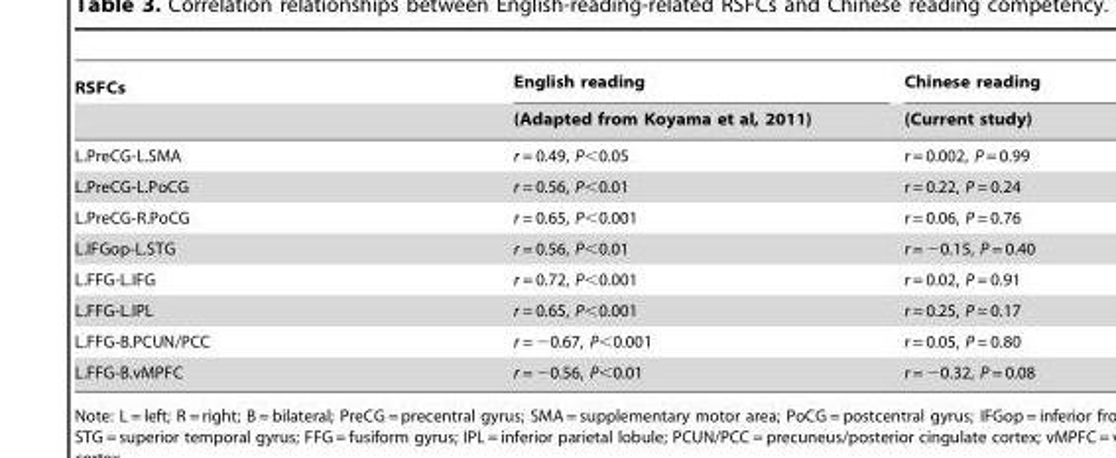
<table><thead><tr><td rowspan="2">RSFCs</td><td rowspan="2">English reading (Adapted from Koyama et al, 2011)</td><td rowspan="2">Chinese reading (Current study)</td></tr><tr></tr></thead><tbody><tr><td>L.PreCG-L.SMA</td><td>r = 0.49, P&lt;0.05</td><td>r = 0.002, P = 0.99</td></tr><tr><td>L.PreCG-L.PoCG</td><td>r = 0.56, P&lt;0.01</td><td>r = 0.22, P = 0.24</td></tr><tr><td>L.PreCG-R.PoCG</td><td>r = 0.65, P&lt;0.001</td><td>r = 0.06, P = 0.76</td></tr><tr><td>L.IFGop-L.STG</td><td>r = 0.56, P&lt;0.01</td><td>r = −0.15, P = 0.40</td></tr><tr><td>L.FFG-L.IFG</td><td>r = 0.72, P&lt;0.001</td><td>r = 0.02, P = 0.91</td></tr><tr><td>L.FFG-L.IPL</td><td>r = 0.65, P&lt;0.001</td><td>r = 0.25, P = 0.17</td></tr><tr><td>L.FFG-B.PCUN/PCC</td><td>r = −0.67, P&lt;0.001</td><td>r = 0.05, P = 0.80</td></tr><tr><td>L.FFG-B.vMPFC</td><td>r = −0.56, P&lt;0.01</td><td>r = −0.32, P = 0.08</td></tr></tbody></table>